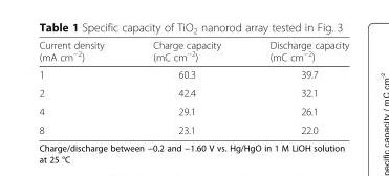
<table><thead><tr><td>Current density (mA cm<sup>−2</sup>)</td><td>Charge capacity (mC cm<sup>−2</sup>)</td><td>Discharge capacity (mC cm<sup>−2</sup>)</td></tr></thead><tbody><tr><td>1</td><td>60.3</td><td>39.7</td></tr><tr><td>2</td><td>42.4</td><td>32.1</td></tr><tr><td>4</td><td>29.1</td><td>26.1</td></tr><tr><td>8</td><td>23.1</td><td>22.0</td></tr></tbody></table>